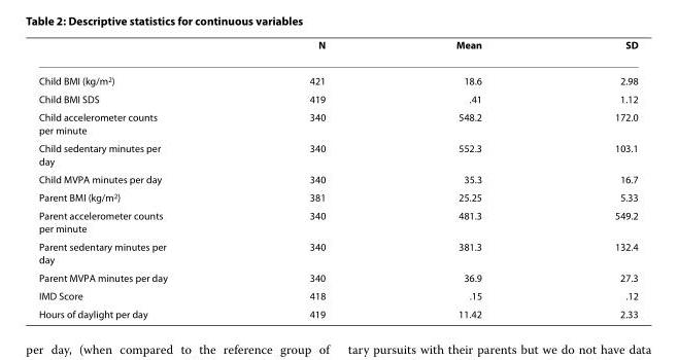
<table><thead><tr><td></td><td>N</td><td>Mean</td><td>SD</td></tr></thead><tbody><tr><td>Child BMI (kg/m<sup>2</sup>)</td><td>421</td><td>18.6</td><td>2.98</td></tr><tr><td>Child BMI SDS</td><td>419</td><td>.41</td><td>1.12</td></tr><tr><td>Child accelerometer counts per minute</td><td>340</td><td>548.2</td><td>172.0</td></tr><tr><td>Child sedentary minutes per day</td><td>340</td><td>552.3</td><td>103.1</td></tr><tr><td>Child MVPA minutes per day</td><td>340</td><td>35.3</td><td>16.7</td></tr><tr><td>Parent BMI (kg/m<sup>2</sup>)</td><td>381</td><td>25.25</td><td>5.33</td></tr><tr><td>Parent accelerometer counts per minute</td><td>340</td><td>481.3</td><td>549.2</td></tr><tr><td>Parent sedentary minutes per day</td><td>340</td><td>381.3</td><td>132.4</td></tr><tr><td>Parent MVPA minutes per day</td><td>340</td><td>36.9</td><td>27.3</td></tr><tr><td>IMD Score</td><td>418</td><td>.15</td><td>.12</td></tr><tr><td>Hours of daylight per day</td><td>419</td><td>11.42</td><td>2.33</td></tr></tbody></table>